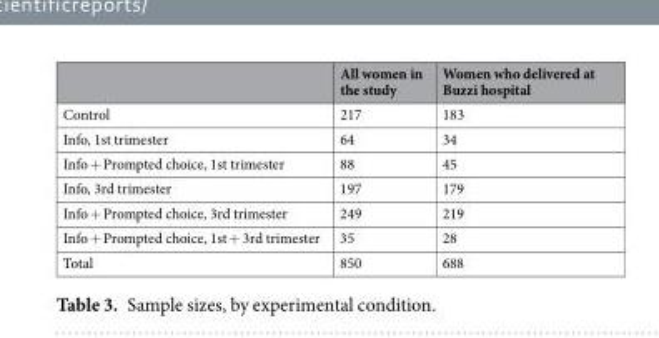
<table><thead><tr><td></td><td>All women in the study</td><td>Women who delivered at Buzzi hospital</td></tr></thead><tbody><tr><td>Control</td><td>217</td><td>183</td></tr><tr><td>Info, 1st trimester</td><td>64</td><td>34</td></tr><tr><td>Info + Prompted choice, 1st trimester</td><td>88</td><td>45</td></tr><tr><td>Info, 3rd trimester</td><td>197</td><td>179</td></tr><tr><td>Info + Prompted choice, 3rd trimester</td><td>249</td><td>219</td></tr><tr><td>Info + Prompted choice, 1st + 3rd trimester</td><td>35</td><td>28</td></tr><tr><td>Total</td><td>850</td><td>688</td></tr></tbody></table>